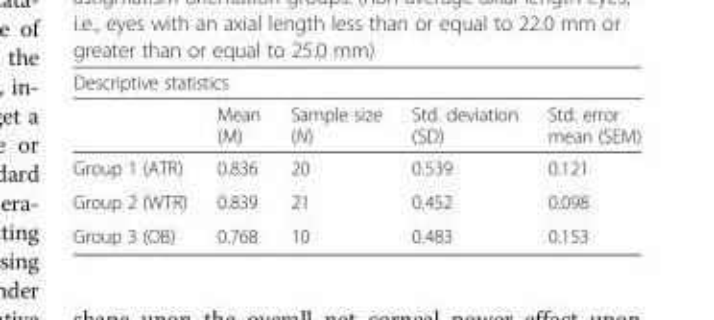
<table><thead><tr><td colspan="5">Descriptive statistics</td></tr><tr><td></td><td>Mean (M)</td><td>Sample size (N)</td><td>Std. deviation (SD)</td><td>Std. error mean (SEM)</td></tr></thead><tbody><tr><td>Group 1 (ATR)</td><td>0.836</td><td>20</td><td>0.539</td><td>0.121</td></tr><tr><td>Group 2 (WTR)</td><td>0.839</td><td>21</td><td>0.452</td><td>0.098</td></tr><tr><td>Group 3 (OB)</td><td>0.768</td><td>10</td><td>0.483</td><td>0.153</td></tr></tbody></table>